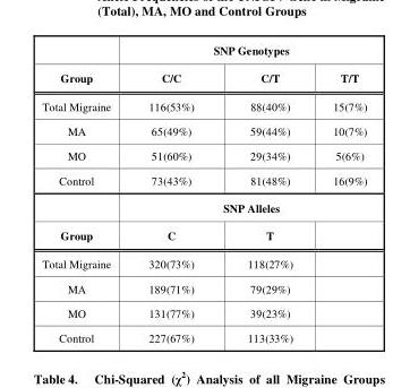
<table><thead><tr><td rowspan="2">Group</td><td colspan="3">SNP Genotypes</td></tr><tr><td>C/C</td><td>C/T</td><td>T/T</td></tr></thead><tbody><tr><td>Total Migraine</td><td>116(53%)</td><td>88(40%)</td><td>15(7%)</td></tr><tr><td>MA</td><td>65(49%)</td><td>59(44%)</td><td>10(7%)</td></tr><tr><td>MO</td><td>51(60%)</td><td>29(34%)</td><td>5(6%)</td></tr><tr><td rowspan="2">Control</td><td>73(43%)</td><td>81(48%)</td><td>16(9%)</td></tr><tr><td colspan="3">SNP Alleles</td></tr><tr><td>Group</td><td>C</td><td>T</td><td></td></tr><tr><td>Total Migraine</td><td>320(73%)</td><td>118(27%)</td><td></td></tr><tr><td>MA</td><td>189(71%)</td><td>79(29%)</td><td></td></tr><tr><td>MO</td><td>131(77%)</td><td>39(23%)</td><td></td></tr><tr><td>Control</td><td>227(67%)</td><td>113(33%)</td><td></td></tr></tbody></table>